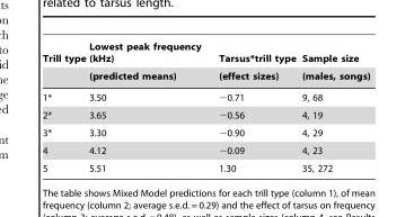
<table><thead><tr><td rowspan="2">Trill type</td><td rowspan="2">Lowest peak frequency (kHz) (predicted means)</td><td rowspan="2">Tarsus*trill type (effect sizes)</td><td rowspan="2">Sample size (males, songs)</td></tr><tr></tr></thead><tbody><tr><td>1*</td><td>3.50</td><td>−0.71</td><td>9, 68</td></tr><tr><td>2*</td><td>3.65</td><td>−0.56</td><td>4, 19</td></tr><tr><td>3*</td><td>3.30</td><td>−0.90</td><td>4, 29</td></tr><tr><td>4</td><td>4.12</td><td>−0.09</td><td>4, 23</td></tr><tr><td>5</td><td>5.51</td><td>1.30</td><td>35, 272</td></tr></tbody></table>